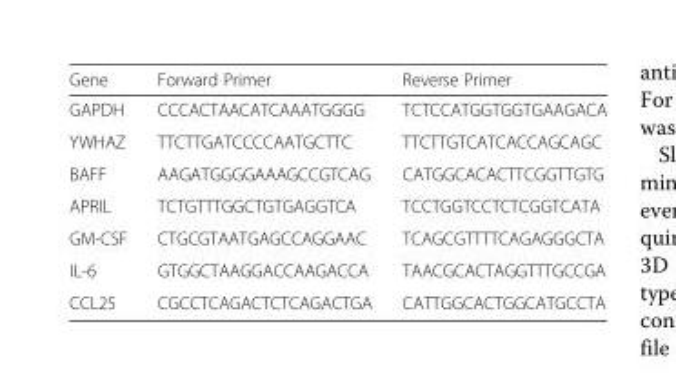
<table><thead><tr><td>Gene</td><td>Forward Primer</td><td>Reverse Primer</td></tr></thead><tbody><tr><td>GAPDH</td><td>CCCACTAACATCAAATGGGG</td><td>TCTCCATGGTGGTGAAGACA</td></tr><tr><td>YWHAZ</td><td>TTCTTGATCCCCAATGCTTC</td><td>TTCTTGTCATCACCAGCAGC</td></tr><tr><td>BAFF</td><td>AAGATGGGGAAAGCCGTCAG</td><td>CATGGCACACTTCGGTTGTG</td></tr><tr><td>APRIL</td><td>TCTGTTTGGCTGTGAGGTCA</td><td>TCCTGGTCCTCTCGGTCATA</td></tr><tr><td>GM-CSF</td><td>CTGCGTAATGAGCCAGGAAC</td><td>TCAGCGTTTTCAGAGGGCTA</td></tr><tr><td>IL-6</td><td>GTGGCTAAGGACCAAGACCA</td><td>TAACGCACTAGGTTTGCCGA</td></tr><tr><td>CCL25</td><td>CGCCTCAGACTCTCAGACTGA</td><td>CATTGGCACTGGCATGCCTA</td></tr></tbody></table>